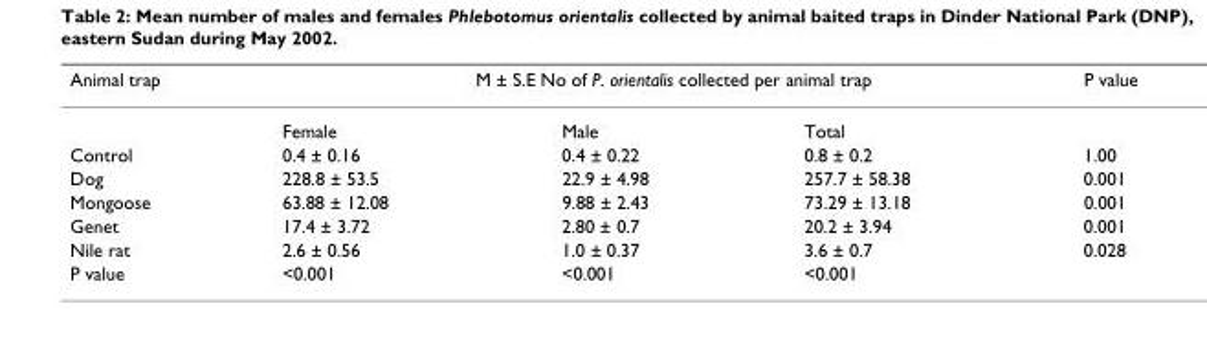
<table><thead><tr><td rowspan="2">Animal trap</td><td colspan="3">M ± S.E No of P. orientalis collected per animal trap</td><td rowspan="2">P value</td></tr><tr><td>Female</td><td>Male</td><td>Total</td></tr></thead><tbody><tr><td>Control</td><td>0.4 ± 0.16</td><td>0.4 ± 0.22</td><td>0.8 ± 0.2</td><td>1.00</td></tr><tr><td>Dog</td><td>228.8 ± 53.5</td><td>22.9 ± 4.98</td><td>257.7 ± 58.38</td><td>0.001</td></tr><tr><td>Mongoose</td><td>63.88 ± 12.08</td><td>9.88 ± 2.43</td><td>73.29 ± 13.18</td><td>0.001</td></tr><tr><td>Genet</td><td>17.4 ± 3.72</td><td>2.80 ± 0.7</td><td>20.2 ± 3.94</td><td>0.001</td></tr><tr><td>Nile rat</td><td>2.6 ± 0.56</td><td>1.0 ± 0.37</td><td>3.6 ± 0.7</td><td>0.028</td></tr><tr><td>P value</td><td>&lt;0.001</td><td>&lt;0.001</td><td>&lt;0.001</td><td></td></tr></tbody></table>